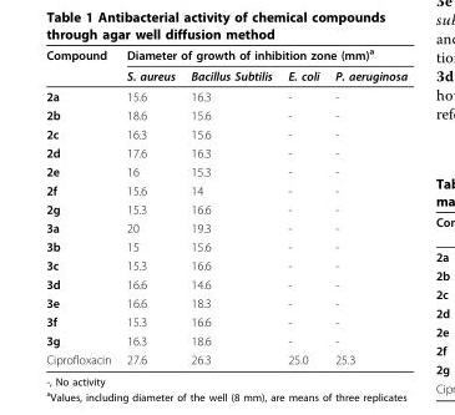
<table><thead><tr><td rowspan="2">Compound</td><td colspan="4">Diameter of growth of inhibition zone (mm)<sup>a</sup></td></tr><tr><td>S. aureus</td><td>Bacillus Subtilis</td><td>E. coli</td><td>P. aeruginosa</td></tr></thead><tbody><tr><td>2a</td><td>15.6</td><td>16.3</td><td>-</td><td>-</td></tr><tr><td>2b</td><td>18.6</td><td>15.6</td><td>-</td><td>-</td></tr><tr><td>2c</td><td>16.3</td><td>15.6</td><td>-</td><td>-</td></tr><tr><td>2d</td><td>17.6</td><td>16.3</td><td>-</td><td>-</td></tr><tr><td>2e</td><td>16</td><td>15.3</td><td>-</td><td>-</td></tr><tr><td>2f</td><td>15.6</td><td>14</td><td>-</td><td>-</td></tr><tr><td>2g</td><td>15.3</td><td>16.6</td><td>-</td><td>-</td></tr><tr><td>3a</td><td>20</td><td>19.3</td><td>-</td><td>-</td></tr><tr><td>3b</td><td>15</td><td>15.6</td><td>-</td><td>-</td></tr><tr><td>3c</td><td>15.3</td><td>16.6</td><td>-</td><td>-</td></tr><tr><td>3d</td><td>16.6</td><td>14.6</td><td>-</td><td>-</td></tr><tr><td>3e</td><td>16.6</td><td>18.3</td><td>-</td><td>-</td></tr><tr><td>3f</td><td>15.3</td><td>16.6</td><td>-</td><td>-</td></tr><tr><td>3g</td><td>16.3</td><td>18.6</td><td>-</td><td>-</td></tr><tr><td>Ciprofloxacin</td><td>27.6</td><td>26.3</td><td>25.0</td><td>25.3</td></tr></tbody></table>